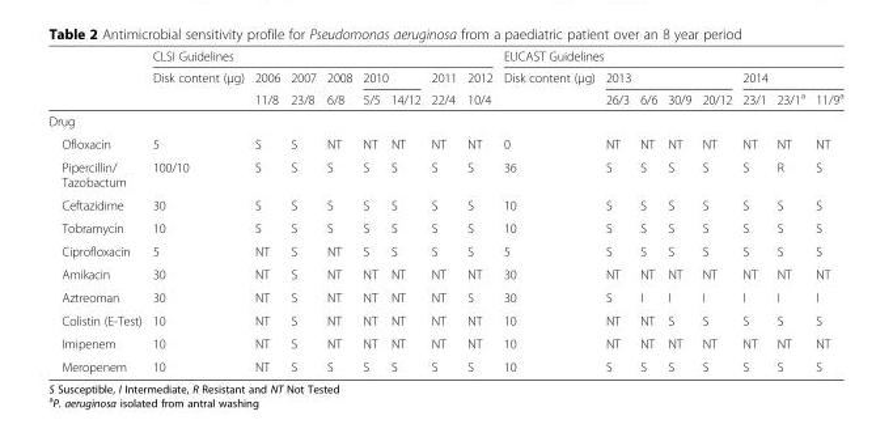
<table><thead><tr><td rowspan="3"></td><td colspan="8">CLSI Guidelines</td><td colspan="8">EUCAST Guidelines</td></tr><tr><td rowspan="2">Disk content (μg)</td><td rowspan="2">2006 11/8</td><td rowspan="2">2007 23/8</td><td rowspan="2">2008 6/8</td><td colspan="2">2010</td><td rowspan="2">2011 22/4</td><td rowspan="2">2012 10/4</td><td rowspan="2">Disk content (μg)</td><td colspan="4">2013</td><td colspan="3">2014</td></tr><tr><td>5/5</td><td>14/12</td><td>26/3</td><td>6/6</td><td>30/9</td><td>20/12</td><td>23/1</td><td>23/1<sup>a</sup></td><td>11/9<sup>a</sup></td></tr></thead><tbody><tr><td colspan="17">Drug</td></tr><tr><td>Ofloxacin</td><td>5</td><td>S</td><td>S</td><td>NT</td><td>NT</td><td>NT</td><td>NT</td><td>NT</td><td>0</td><td>NT</td><td>NT</td><td>NT</td><td>NT</td><td>NT</td><td>NT</td><td>NT</td></tr><tr><td>Pipercillin/ Tazobactum</td><td>100/10</td><td>S</td><td>S</td><td>S</td><td>S</td><td>S</td><td>S</td><td>S</td><td>36</td><td>S</td><td>S</td><td>S</td><td>S</td><td>S</td><td>R</td><td>S</td></tr><tr><td>Ceftazidime</td><td>30</td><td>S</td><td>S</td><td>S</td><td>S</td><td>S</td><td>S</td><td>S</td><td>10</td><td>S</td><td>S</td><td>S</td><td>S</td><td>S</td><td>S</td><td>S</td></tr><tr><td>Tobramycin</td><td>10</td><td>S</td><td>S</td><td>S</td><td>S</td><td>S</td><td>S</td><td>S</td><td>10</td><td>S</td><td>S</td><td>S</td><td>S</td><td>S</td><td>S</td><td>S</td></tr><tr><td>Ciprofloxacin</td><td>5</td><td>NT</td><td>S</td><td>NT</td><td>S</td><td>S</td><td>S</td><td>S</td><td>5</td><td>S</td><td>S</td><td>S</td><td>S</td><td>S</td><td>S</td><td>S</td></tr><tr><td>Amikacin</td><td>30</td><td>NT</td><td>S</td><td>NT</td><td>NT</td><td>NT</td><td>NT</td><td>NT</td><td>30</td><td>NT</td><td>NT</td><td>NT</td><td>NT</td><td>NT</td><td>NT</td><td>NT</td></tr><tr><td>Aztreoman</td><td>30</td><td>NT</td><td>S</td><td>NT</td><td>NT</td><td>NT</td><td>NT</td><td>S</td><td>30</td><td>S</td><td>I</td><td>I</td><td>I</td><td>I</td><td>I</td><td>I</td></tr><tr><td>Colistin (E-Test)</td><td>10</td><td>NT</td><td>S</td><td>NT</td><td>NT</td><td>NT</td><td>NT</td><td>NT</td><td>10</td><td>NT</td><td>NT</td><td>S</td><td>S</td><td>S</td><td>S</td><td>S</td></tr><tr><td>Imipenem</td><td>10</td><td>NT</td><td>S</td><td>NT</td><td>NT</td><td>NT</td><td>NT</td><td>NT</td><td>10</td><td>NT</td><td>NT</td><td>NT</td><td>NT</td><td>NT</td><td>NT</td><td>NT</td></tr><tr><td>Meropenem</td><td>10</td><td>NT</td><td>S</td><td>S</td><td>S</td><td>S</td><td>S</td><td>S</td><td>10</td><td>S</td><td>S</td><td>S</td><td>S</td><td>S</td><td>S</td><td>S</td></tr></tbody></table>